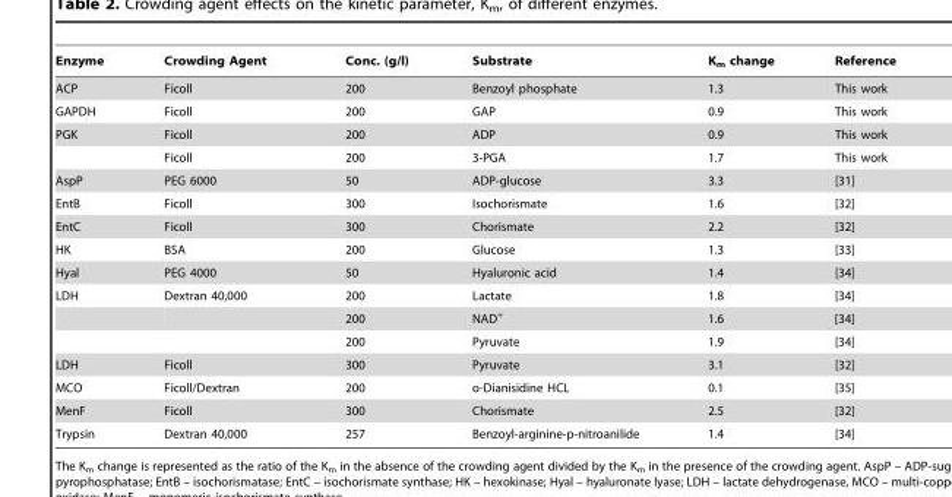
<table><thead><tr><td>Enzyme</td><td>Crowding Agent</td><td>Conc. (g/l)</td><td>Substrate</td><td>K<sub>m</sub> change</td><td>Reference</td></tr></thead><tbody><tr><td>ACP</td><td>Ficoll</td><td>200</td><td>Benzoyl phosphate</td><td>1.3</td><td>This work</td></tr><tr><td>GAPDH</td><td>Ficoll</td><td>200</td><td>GAP</td><td>0.9</td><td>This work</td></tr><tr><td rowspan="2">PGK</td><td>Ficoll</td><td>200</td><td>ADP</td><td>0.9</td><td>This work</td></tr><tr><td>Ficoll</td><td>200</td><td>3-PGA</td><td>1.7</td><td>This work</td></tr><tr><td>AspP</td><td>PEG 6000</td><td>50</td><td>ADP-glucose</td><td>3.3</td><td>[31]</td></tr><tr><td>EntB</td><td>Ficoll</td><td>300</td><td>Isochorismate</td><td>1.6</td><td>[32]</td></tr><tr><td>EntC</td><td>Ficoll</td><td>300</td><td>Chorismate</td><td>2.2</td><td>[32]</td></tr><tr><td>HK</td><td>BSA</td><td>200</td><td>Glucose</td><td>1.3</td><td>[33]</td></tr><tr><td>Hyal</td><td>PEG 4000</td><td>50</td><td>Hyaluronic acid</td><td>1.4</td><td>[34]</td></tr><tr><td rowspan="3">LDH</td><td>Dextran 40,000</td><td>200</td><td>Lactate</td><td>1.8</td><td>[34]</td></tr><tr><td></td><td>200</td><td>NAD<sup>+</sup></td><td>1.6</td><td>[34]</td></tr><tr><td></td><td>200</td><td>Pyruvate</td><td>1.9</td><td>[34]</td></tr><tr><td>LDH</td><td>Ficoll</td><td>300</td><td>Pyruvate</td><td>3.1</td><td>[32]</td></tr><tr><td>MCO</td><td>Ficoll/Dextran</td><td>200</td><td>o-Dianisidine HCL</td><td>0.1</td><td>[35]</td></tr><tr><td>MenF</td><td>Ficoll</td><td>300</td><td>Chorismate</td><td>2.5</td><td>[32]</td></tr><tr><td>Trypsin</td><td>Dextran 40,000</td><td>257</td><td>Benzoyl-arginine-p-nitroanilide</td><td>1.4</td><td>[34]</td></tr></tbody></table>